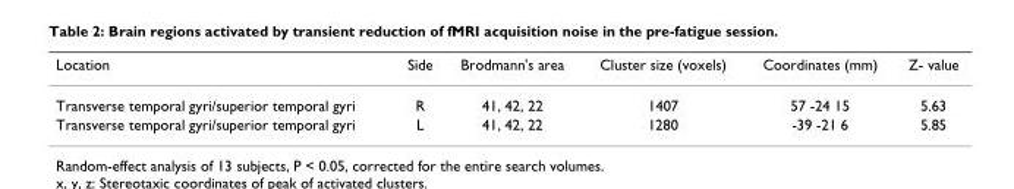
<table><thead><tr><td>Location</td><td>Side</td><td>Brodmann&#x27;s area</td><td>Cluster size (voxels)</td><td>Coordinates (mm)</td><td>Z- value</td></tr></thead><tbody><tr><td>Transverse temporal gyri/superior temporal gyri</td><td>R</td><td>41, 42, 22</td><td>1407</td><td>57 -24 15</td><td>5.63</td></tr><tr><td>Transverse temporal gyri/superior temporal gyri</td><td>L</td><td>41, 42, 22</td><td>1280</td><td>-39 -21 6</td><td>5.85</td></tr></tbody></table>